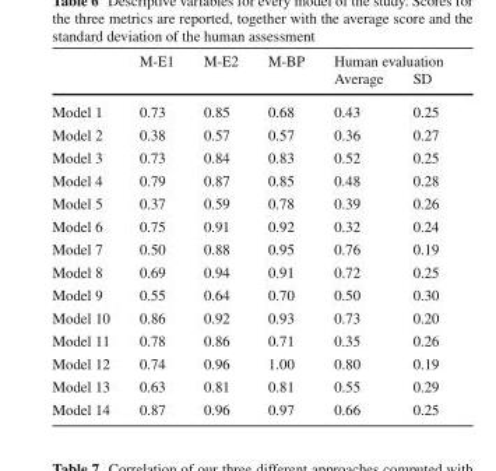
<table><thead><tr><td rowspan="2"></td><td rowspan="2">M-E1</td><td rowspan="2">M-E2</td><td rowspan="2">M-BP</td><td colspan="2">Human evaluation</td></tr><tr><td>Average</td><td>SD</td></tr></thead><tbody><tr><td>Model 1</td><td>0.73</td><td>0.85</td><td>0.68</td><td>0.43</td><td>0.25</td></tr><tr><td>Model 2</td><td>0.38</td><td>0.57</td><td>0.57</td><td>0.36</td><td>0.27</td></tr><tr><td>Model 3</td><td>0.73</td><td>0.84</td><td>0.83</td><td>0.52</td><td>0.25</td></tr><tr><td>Model 4</td><td>0.79</td><td>0.87</td><td>0.85</td><td>0.48</td><td>0.28</td></tr><tr><td>Model 5</td><td>0.37</td><td>0.59</td><td>0.78</td><td>0.39</td><td>0.26</td></tr><tr><td>Model 6</td><td>0.75</td><td>0.91</td><td>0.92</td><td>0.32</td><td>0.24</td></tr><tr><td>Model 7</td><td>0.50</td><td>0.88</td><td>0.95</td><td>0.76</td><td>0.19</td></tr><tr><td>Model 8</td><td>0.69</td><td>0.94</td><td>0.91</td><td>0.72</td><td>0.25</td></tr><tr><td>Model 9</td><td>0.55</td><td>0.64</td><td>0.70</td><td>0.50</td><td>0.30</td></tr><tr><td>Model 10</td><td>0.86</td><td>0.92</td><td>0.93</td><td>0.73</td><td>0.20</td></tr><tr><td>Model 11</td><td>0.78</td><td>0.86</td><td>0.71</td><td>0.35</td><td>0.26</td></tr><tr><td>Model 12</td><td>0.74</td><td>0.96</td><td>1.00</td><td>0.80</td><td>0.19</td></tr><tr><td>Model 13</td><td>0.63</td><td>0.81</td><td>0.81</td><td>0.55</td><td>0.29</td></tr><tr><td>Model 14</td><td>0.87</td><td>0.96</td><td>0.97</td><td>0.66</td><td>0.25</td></tr></tbody></table>